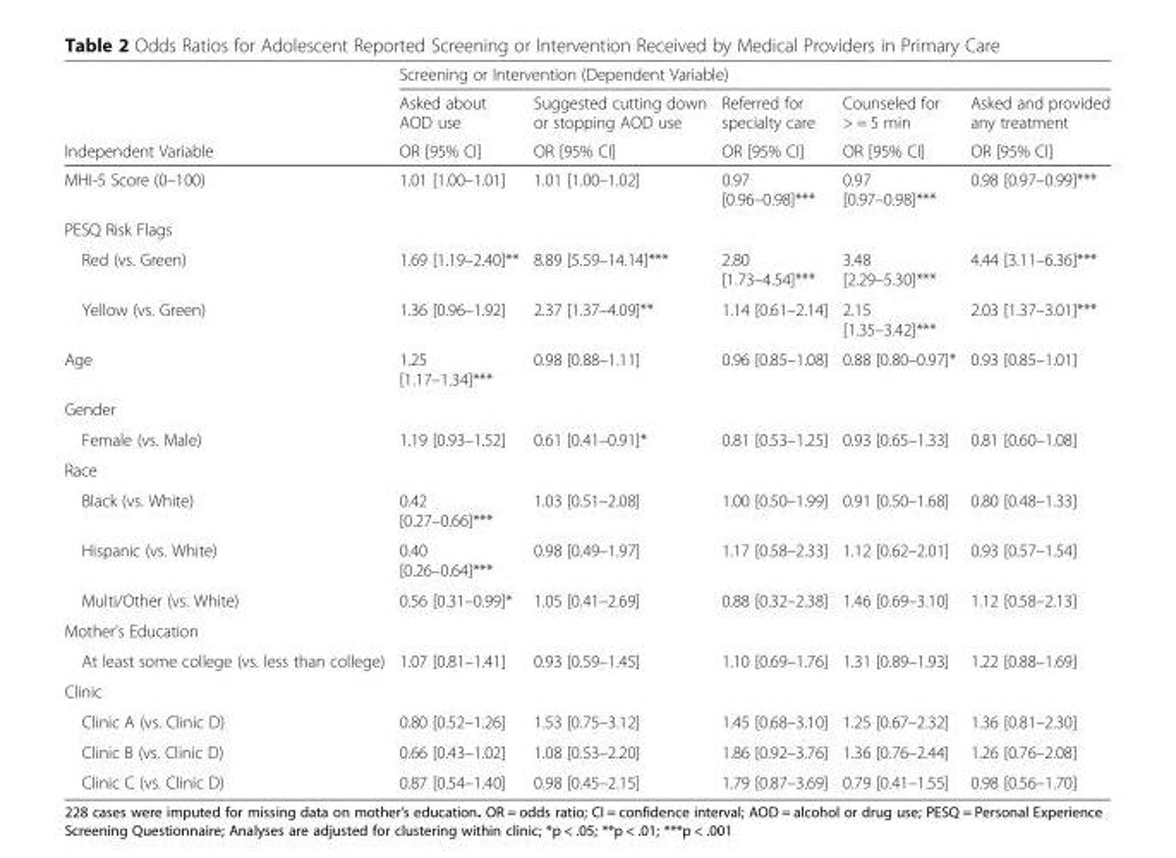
<table><thead><tr><td rowspan="3">Independent Variable</td><td colspan="5">Screening or Intervention (Dependent Variable)</td></tr><tr><td rowspan="2">Asked about AOD use OR [95% CI]</td><td rowspan="2">Suggested cutting down or stopping AOD use OR [95% CI]</td><td rowspan="2">Referred for specialty care OR [95% CI]</td><td rowspan="2">Counseled for &gt; = 5 min OR [95% CI]</td><td rowspan="2">Asked and provided any treatment OR [95% CI]</td></tr><tr></tr></thead><tbody><tr><td>MHI-5 Score (0–100)</td><td>1.01 [1.00–1.01]</td><td>1.01 [1.00–1.02]</td><td>0.97 [0.96–0.98]***</td><td>0.97 [0.97–0.98]***</td><td>0.98 [0.97–0.99]***</td></tr><tr><td colspan="6">PESQ Risk Flags</td></tr><tr><td>Red (vs. Green)</td><td>1.69 [1.19–2.40]**</td><td>8.89 [5.59–14.14]***</td><td>2.80 [1.73–4.54]***</td><td>3.48 [2.29–5.30]***</td><td>4.44 [3.11–6.36]***</td></tr><tr><td>Yellow (vs. Green)</td><td>1.36 [0.96–1.92]</td><td>2.37 [1.37–4.09]**</td><td>1.14 [0.61–2.14]</td><td>2.15 [1.35–3.42]***</td><td>2.03 [1.37–3.01]***</td></tr><tr><td>Age</td><td>1.25 [1.17–1.34]***</td><td>0.98 [0.88–1.11]</td><td>0.96 [0.85–1.08]</td><td>0.88 [0.80–0.97]*</td><td>0.93 [0.85–1.01]</td></tr><tr><td colspan="6">Gender</td></tr><tr><td>Female (vs. Male)</td><td>1.19 [0.93–1.52]</td><td>0.61 [0.41–0.91]*</td><td>0.81 [0.53–1.25]</td><td>0.93 [0.65–1.33]</td><td>0.81 [0.60–1.08]</td></tr><tr><td colspan="6">Race</td></tr><tr><td>Black (vs. White)</td><td>0.42 [0.27–0.66]***</td><td>1.03 [0.51–2.08]</td><td>1.00 [0.50–1.99]</td><td>0.91 [0.50–1.68]</td><td>0.80 [0.48–1.33]</td></tr><tr><td>Hispanic (vs. White)</td><td>0.40 [0.26–0.64]***</td><td>0.98 [0.49–1.97]</td><td>1.17 [0.58–2.33]</td><td>1.12 [0.62–2.01]</td><td>0.93 [0.57–1.54]</td></tr><tr><td>Multi/Other (vs. White)</td><td>0.56 [0.31–0.99]*</td><td>1.05 [0.41–2.69]</td><td>0.88 [0.32–2.38]</td><td>1.46 [0.69–3.10]</td><td>1.12 [0.58–2.13]</td></tr><tr><td colspan="6">Mother’s Education</td></tr><tr><td>At least some college (vs. less than college)</td><td>1.07 [0.81–1.41]</td><td>0.93 [0.59–1.45]</td><td>1.10 [0.69–1.76]</td><td>1.31 [0.89–1.93]</td><td>1.22 [0.88–1.69]</td></tr><tr><td colspan="6">Clinic</td></tr><tr><td>Clinic A (vs. Clinic D)</td><td>0.80 [0.52–1.26]</td><td>1.53 [0.75–3.12]</td><td>1.45 [0.68–3.10]</td><td>1.25 [0.67–2.32]</td><td>1.36 [0.81–2.30]</td></tr><tr><td>Clinic B (vs. Clinic D)</td><td>0.66 [0.43–1.02]</td><td>1.08 [0.53–2.20]</td><td>1.86 [0.92–3.76]</td><td>1.36 [0.76–2.44]</td><td>1.26 [0.76–2.08]</td></tr><tr><td>Clinic C (vs. Clinic D)</td><td>0.87 [0.54–1.40]</td><td>0.98 [0.45–2.15]</td><td>1.79 [0.87–3.69]</td><td>0.79 [0.41–1.55]</td><td>0.98 [0.56–1.70]</td></tr></tbody></table>